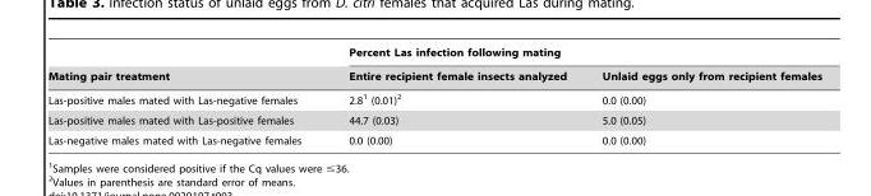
<table><thead><tr><td rowspan="2">Mating pair treatment</td><td colspan="2">Percent Las infection following mating</td></tr><tr><td>Entire recipient female insects analyzed</td><td>Unlaid eggs only from recipient females</td></tr></thead><tbody><tr><td>Las-positive males mated with Las-negative females</td><td>2.8<sup>1</sup> (0.01)<sup>2</sup></td><td>0.0 (0.00)</td></tr><tr><td>Las-positive males mated with Las-positive females</td><td>44.7 (0.03)</td><td>5.0 (0.05)</td></tr><tr><td>Las-negative males mated with Las-negative females</td><td>0.0 (0.00)</td><td>0.0 (0.00)</td></tr></tbody></table>